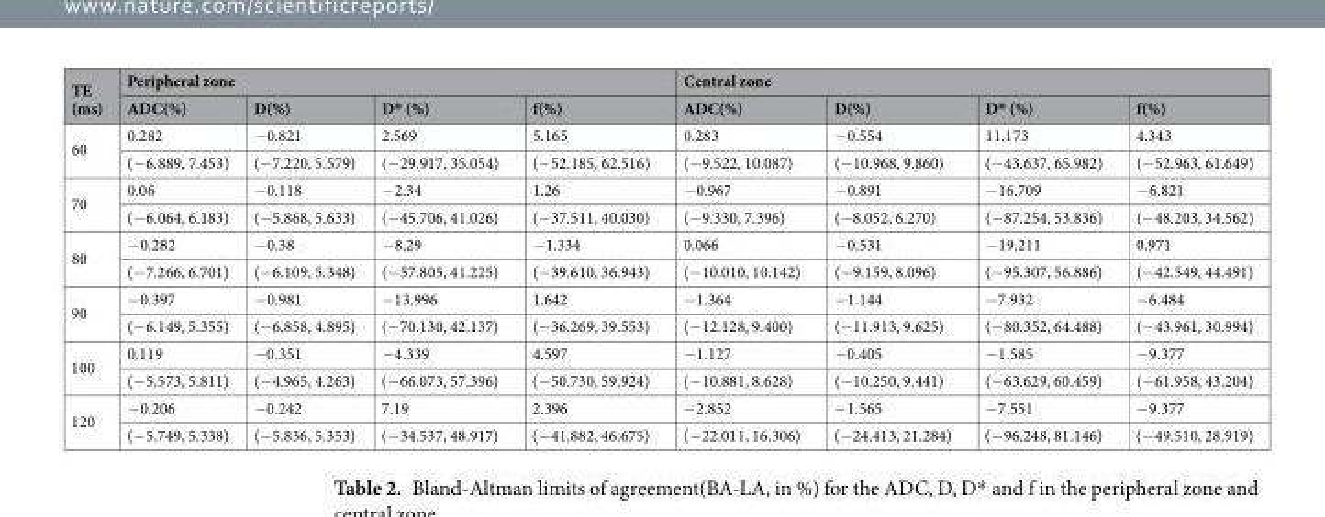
<table><thead><tr><td rowspan="2">TE (ms)</td><td colspan="4">Peripheral zone</td><td colspan="4">Central zone</td></tr><tr><td>ADC(%)</td><td>D(%)</td><td>D* (%)</td><td>f(%)</td><td>ADC(%)</td><td>D(%)</td><td>D* (%)</td><td>f(%)</td></tr></thead><tbody><tr><td rowspan="2">60</td><td>0.282</td><td>−0.821</td><td>2.569</td><td>5.165</td><td>0.283</td><td>−0.554</td><td>11.173</td><td>4.343</td></tr><tr><td>(−6.889, 7.453)</td><td>(−7.220, 5.579)</td><td>(−29.917, 35.054)</td><td>(−52.185, 62.516)</td><td>(−9.522, 10.087)</td><td>(−10.968, 9.860)</td><td>(−43.637, 65.982)</td><td>(−52.963, 61.649)</td></tr><tr><td rowspan="2">70</td><td>0.06</td><td>−0.118</td><td>−2.34</td><td>1.26</td><td>−0.967</td><td>−0.891</td><td>−16.709</td><td>−6.821</td></tr><tr><td>(−6.064, 6.183)</td><td>(−5.868, 5.633)</td><td>(−45.706, 41.026)</td><td>(−37.511, 40.030)</td><td>(−9.330, 7.396)</td><td>(−8.052, 6.270)</td><td>(−87.254, 53.836)</td><td>(−48.203, 34.562)</td></tr><tr><td rowspan="2">80</td><td>−0.282</td><td>−0.38</td><td>−8.29</td><td>−1.334</td><td>0.066</td><td>−0.531</td><td>−19.211</td><td>0.971</td></tr><tr><td>(−7.266, 6.701)</td><td>(−6.109, 5.348)</td><td>(−57.805, 41.225)</td><td>(−39.610, 36.943)</td><td>(−10.010, 10.142)</td><td>(−9.159, 8.096)</td><td>(−95.307, 56.886)</td><td>(−42.549, 44.491)</td></tr><tr><td rowspan="2">90</td><td>−0.397</td><td>−0.981</td><td>−13.996</td><td>1.642</td><td>−1.364</td><td>−1.144</td><td>−7.932</td><td>−6.484</td></tr><tr><td>(−6.149, 5.355)</td><td>(−6.858, 4.895)</td><td>(−70.130, 42.137)</td><td>(−36.269, 39.553)</td><td>(−12.128, 9.400)</td><td>(−11.913, 9.625)</td><td>(−80.352, 64.488)</td><td>(−43.961, 30.994)</td></tr><tr><td rowspan="2">100</td><td>0.119</td><td>−0.351</td><td>−4.339</td><td>4.597</td><td>−1.127</td><td>−0.405</td><td>−1.585</td><td>−9.377</td></tr><tr><td>(−5.573, 5.811)</td><td>(−4.965, 4.263)</td><td>(−66.073, 57.396)</td><td>(−50.730, 59.924)</td><td>(−10.881, 8.628)</td><td>(−10.250, 9.441)</td><td>(−63.629, 60.459)</td><td>(−61.958, 43.204)</td></tr><tr><td rowspan="2">120</td><td>−0.206</td><td>−0.242</td><td>7.19</td><td>2.396</td><td>−2.852</td><td>−1.565</td><td>−7.551</td><td>−9.377</td></tr><tr><td>(−5.749, 5.338)</td><td>(−5.836, 5.353)</td><td>(−34.537, 48.917)</td><td>(−41.882, 46.675)</td><td>(−22.011, 16.306)</td><td>(−24.413, 21.284)</td><td>(−96.248, 81.146)</td><td>(−49.510, 28.919)</td></tr></tbody></table>